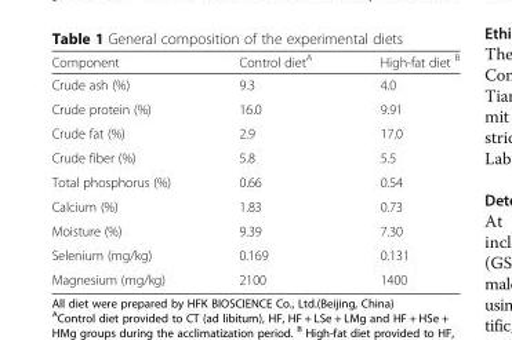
<table><thead><tr><td>Component</td><td>Control diet<sup>A</sup></td><td>High-fat diet <sup>B</sup></td></tr></thead><tbody><tr><td>Crude ash (%)</td><td>9.3</td><td>4.0</td></tr><tr><td>Crude protein (%)</td><td>16.0</td><td>9.91</td></tr><tr><td>Crude fat (%)</td><td>2.9</td><td>17.0</td></tr><tr><td>Crude fiber (%)</td><td>5.8</td><td>5.5</td></tr><tr><td>Total phosphorus (%)</td><td>0.66</td><td>0.54</td></tr><tr><td>Calcium (%)</td><td>1.83</td><td>0.73</td></tr><tr><td>Moisture (%)</td><td>9.39</td><td>7.30</td></tr><tr><td>Selenium (mg/kg)</td><td>0.169</td><td>0.131</td></tr><tr><td>Magnesium (mg/kg)</td><td>2100</td><td>1400</td></tr></tbody></table>